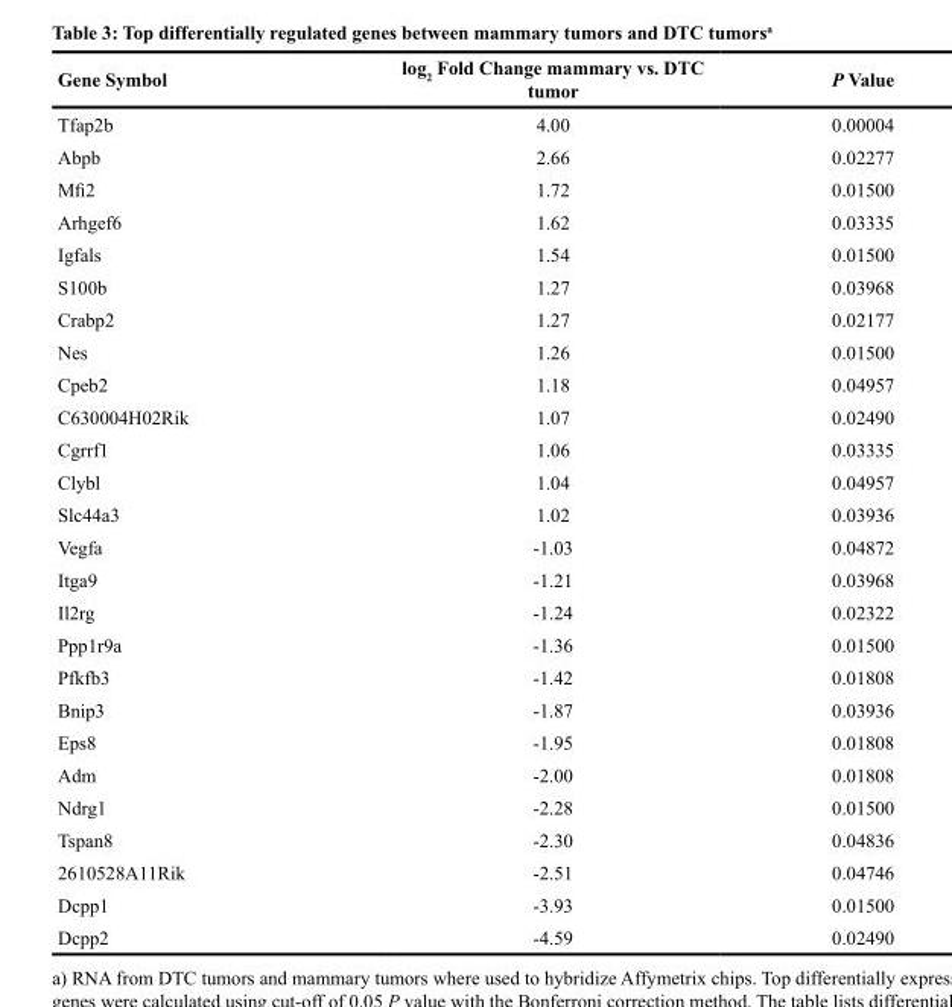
<table><thead><tr><td>Gene Symbol</td><td>log<sub>2</sub> Fold Change mammary vs. DTC tumor</td><td>P Value</td></tr></thead><tbody><tr><td>Tfap2b</td><td>4.00</td><td>0.00004</td></tr><tr><td>Abpb</td><td>2.66</td><td>0.02277</td></tr><tr><td>Mfi2</td><td>1.72</td><td>0.01500</td></tr><tr><td>Arhgef6</td><td>1.62</td><td>0.03335</td></tr><tr><td>Igfals</td><td>1.54</td><td>0.01500</td></tr><tr><td>S100b</td><td>1.27</td><td>0.03968</td></tr><tr><td>Crabp2</td><td>1.27</td><td>0.02177</td></tr><tr><td>Nes</td><td>1.26</td><td>0.01500</td></tr><tr><td>Cpeb2</td><td>1.18</td><td>0.04957</td></tr><tr><td>C630004H02Rik</td><td>1.07</td><td>0.02490</td></tr><tr><td>Cgrrf1</td><td>1.06</td><td>0.03335</td></tr><tr><td>Clybl</td><td>1.04</td><td>0.04957</td></tr><tr><td>Slc44a3</td><td>1.02</td><td>0.03936</td></tr><tr><td>Vegfa</td><td>-1.03</td><td>0.04872</td></tr><tr><td>Itga9</td><td>-1.21</td><td>0.03968</td></tr><tr><td>Il2rg</td><td>-1.24</td><td>0.02322</td></tr><tr><td>Ppp1r9a</td><td>-1.36</td><td>0.01500</td></tr><tr><td>Pfkfb3</td><td>-1.42</td><td>0.01808</td></tr><tr><td>Bnip3</td><td>-1.87</td><td>0.03936</td></tr><tr><td>Eps8</td><td>-1.95</td><td>0.01808</td></tr><tr><td>Adm</td><td>-2.00</td><td>0.01808</td></tr><tr><td>Ndrg1</td><td>-2.28</td><td>0.01500</td></tr><tr><td>Tspan8</td><td>-2.30</td><td>0.04836</td></tr><tr><td>2610528A11Rik</td><td>-2.51</td><td>0.04746</td></tr><tr><td>Dcpp1</td><td>-3.93</td><td>0.01500</td></tr><tr><td>Dcpp2</td><td>-4.59</td><td>0.02490</td></tr></tbody></table>